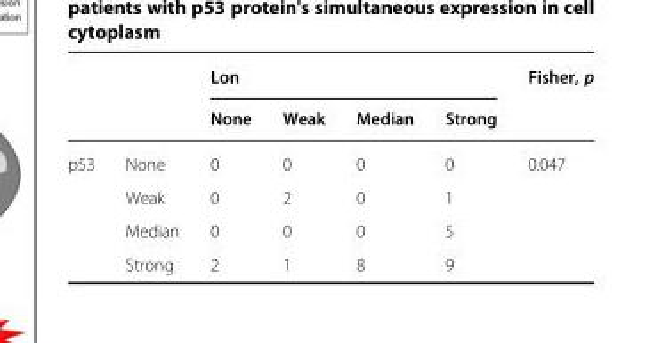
<table><thead><tr><td rowspan="2"></td><td rowspan="2"></td><td colspan="4">Lon</td><td rowspan="2">Fisher, p</td></tr><tr><td>None</td><td>Weak</td><td>Median</td><td>Strong</td></tr></thead><tbody><tr><td rowspan="4">p53</td><td>None</td><td>0</td><td>0</td><td>0</td><td>0</td><td>0.047</td></tr><tr><td>Weak</td><td>0</td><td>2</td><td>0</td><td>1</td><td></td></tr><tr><td>Median</td><td>0</td><td>0</td><td>0</td><td>5</td><td></td></tr><tr><td>Strong</td><td>2</td><td>1</td><td>8</td><td>9</td><td></td></tr></tbody></table>